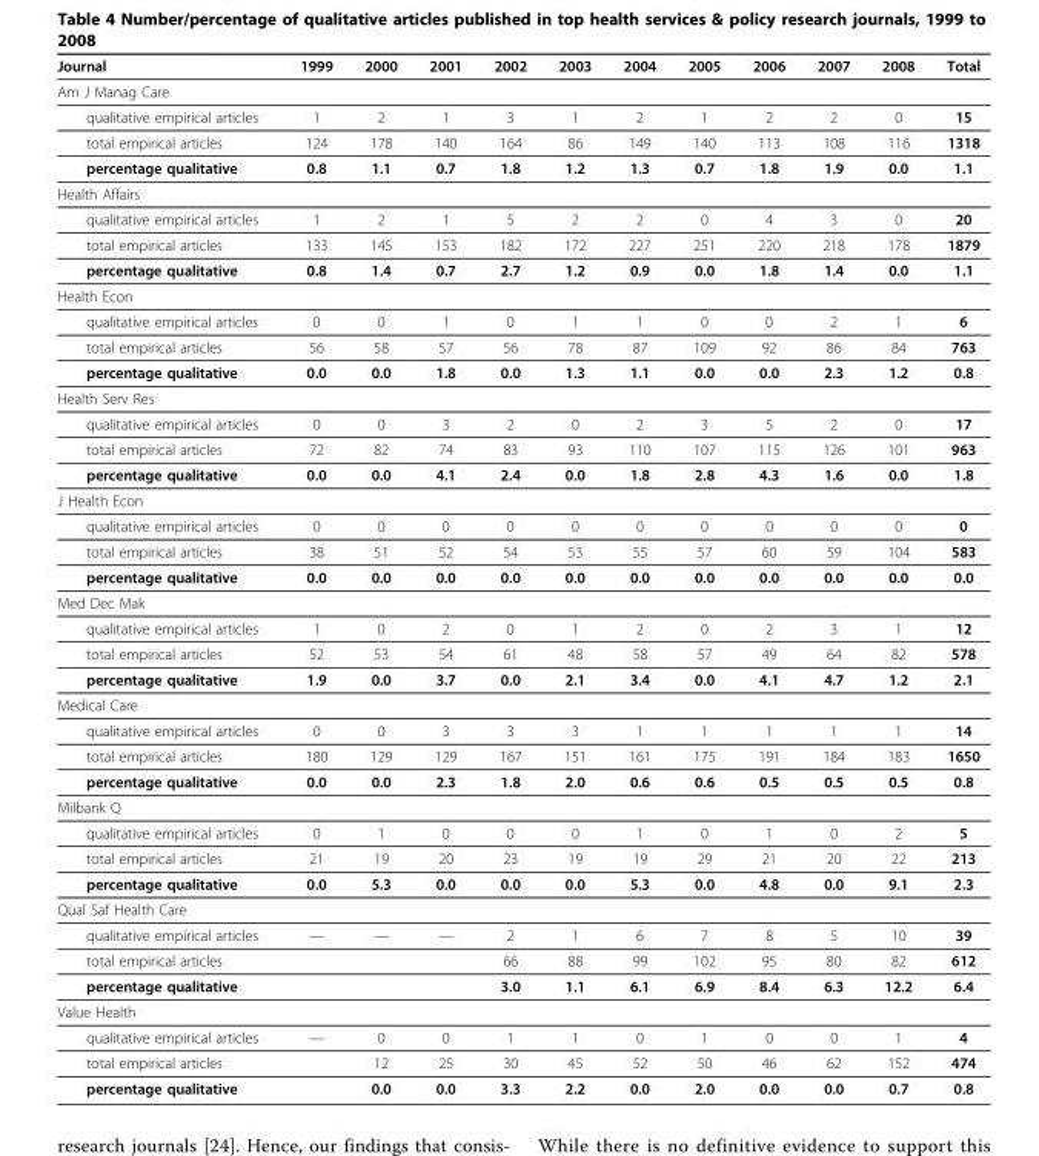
<table><thead><tr><td>Journal</td><td>1999</td><td>2000</td><td>2001</td><td>2002</td><td>2003</td><td>2004</td><td>2005</td><td>2006</td><td>2007</td><td>2008</td><td>Total</td></tr></thead><tbody><tr><td colspan="12">Am J Manag Care</td></tr><tr><td>qualitative empirical articles</td><td>1</td><td>2</td><td>1</td><td>3</td><td>1</td><td>2</td><td>1</td><td>2</td><td>2</td><td>0</td><td>15</td></tr><tr><td>total empirical articles</td><td>124</td><td>178</td><td>140</td><td>164</td><td>86</td><td>149</td><td>140</td><td>113</td><td>108</td><td>116</td><td>1318</td></tr><tr><td>percentage qualitative</td><td>0.8</td><td>1.1</td><td>0.7</td><td>1.8</td><td>1.2</td><td>1.3</td><td>0.7</td><td>1.8</td><td>1.9</td><td>0.0</td><td>1.1</td></tr><tr><td colspan="12">Health Affairs</td></tr><tr><td>qualitative empirical articles</td><td>1</td><td>2</td><td>1</td><td>5</td><td>2</td><td>2</td><td>0</td><td>4</td><td>3</td><td>0</td><td>20</td></tr><tr><td>total empirical articles</td><td>133</td><td>145</td><td>153</td><td>182</td><td>172</td><td>227</td><td>251</td><td>220</td><td>218</td><td>178</td><td>1879</td></tr><tr><td>percentage qualitative</td><td>0.8</td><td>1.4</td><td>0.7</td><td>2.7</td><td>1.2</td><td>0.9</td><td>0.0</td><td>1.8</td><td>1.4</td><td>0.0</td><td>1.1</td></tr><tr><td colspan="12">Health Econ</td></tr><tr><td>qualitative empirical articles</td><td>0</td><td>0</td><td>1</td><td>0</td><td>1</td><td>1</td><td>0</td><td>0</td><td>2</td><td>1</td><td>6</td></tr><tr><td>total empirical articles</td><td>56</td><td>58</td><td>57</td><td>56</td><td>78</td><td>87</td><td>109</td><td>92</td><td>86</td><td>84</td><td>763</td></tr><tr><td>percentage qualitative</td><td>0.0</td><td>0.0</td><td>1.8</td><td>0.0</td><td>1.3</td><td>1.1</td><td>0.0</td><td>0.0</td><td>2.3</td><td>1.2</td><td>0.8</td></tr><tr><td colspan="12">Health Serv Res</td></tr><tr><td>qualitative empirical articles</td><td>0</td><td>0</td><td>3</td><td>2</td><td>0</td><td>2</td><td>3</td><td>5</td><td>2</td><td>0</td><td>17</td></tr><tr><td>total empirical articles</td><td>72</td><td>82</td><td>74</td><td>83</td><td>93</td><td>110</td><td>107</td><td>115</td><td>126</td><td>101</td><td>963</td></tr><tr><td>percentage qualitative</td><td>0.0</td><td>0.0</td><td>4.1</td><td>2.4</td><td>0.0</td><td>1.8</td><td>2.8</td><td>4.3</td><td>1.6</td><td>0.0</td><td>1.8</td></tr><tr><td colspan="12">J Health Econ</td></tr><tr><td>qualitative empirical articles</td><td>0</td><td>0</td><td>0</td><td>0</td><td>0</td><td>0</td><td>0</td><td>0</td><td>0</td><td>0</td><td>0</td></tr><tr><td>total empirical articles</td><td>38</td><td>51</td><td>52</td><td>54</td><td>53</td><td>55</td><td>57</td><td>60</td><td>59</td><td>104</td><td>583</td></tr><tr><td>percentage qualitative</td><td>0.0</td><td>0.0</td><td>0.0</td><td>0.0</td><td>0.0</td><td>0.0</td><td>0.0</td><td>0.0</td><td>0.0</td><td>0.0</td><td>0.0</td></tr><tr><td colspan="12">Med Dec Mak</td></tr><tr><td>qualitative empirical articles</td><td>1</td><td>0</td><td>2</td><td>0</td><td>1</td><td>2</td><td>0</td><td>2</td><td>3</td><td>1</td><td>12</td></tr><tr><td>total empirical articles</td><td>52</td><td>53</td><td>54</td><td>61</td><td>48</td><td>58</td><td>57</td><td>49</td><td>64</td><td>82</td><td>578</td></tr><tr><td>percentage qualitative</td><td>1.9</td><td>0.0</td><td>3.7</td><td>0.0</td><td>2.1</td><td>3.4</td><td>0.0</td><td>4.1</td><td>4.7</td><td>1.2</td><td>2.1</td></tr><tr><td colspan="12">Medical Care</td></tr><tr><td>qualitative empirical articles</td><td>0</td><td>0</td><td>3</td><td>3</td><td>3</td><td>1</td><td>1</td><td>1</td><td>1</td><td>1</td><td>14</td></tr><tr><td>total empirical articles</td><td>180</td><td>129</td><td>129</td><td>167</td><td>151</td><td>161</td><td>175</td><td>191</td><td>184</td><td>183</td><td>1650</td></tr><tr><td>percentage qualitative</td><td>0.0</td><td>0.0</td><td>2.3</td><td>1.8</td><td>2.0</td><td>0.6</td><td>0.6</td><td>0.5</td><td>0.5</td><td>0.5</td><td>0.8</td></tr><tr><td colspan="12">Milbank Q</td></tr><tr><td>qualitative empirical articles</td><td>0</td><td>1</td><td>0</td><td>0</td><td>0</td><td>1</td><td>0</td><td>1</td><td>0</td><td>2</td><td>5</td></tr><tr><td>total empirical articles</td><td>21</td><td>19</td><td>20</td><td>23</td><td>19</td><td>19</td><td>29</td><td>21</td><td>20</td><td>22</td><td>213</td></tr><tr><td>percentage qualitative</td><td>0.0</td><td>5.3</td><td>0.0</td><td>0.0</td><td>0.0</td><td>5.3</td><td>0.0</td><td>4.8</td><td>0.0</td><td>9.1</td><td>2.3</td></tr><tr><td colspan="12">Qual Saf Health Care</td></tr><tr><td>qualitative empirical articles</td><td>—</td><td>—</td><td>—</td><td>2</td><td>1</td><td>6</td><td>7</td><td>8</td><td>5</td><td>10</td><td>39</td></tr><tr><td>total empirical articles</td><td></td><td></td><td></td><td>66</td><td>88</td><td>99</td><td>102</td><td>95</td><td>80</td><td>82</td><td>612</td></tr><tr><td>percentage qualitative</td><td></td><td></td><td></td><td>3.0</td><td>1.1</td><td>6.1</td><td>6.9</td><td>8.4</td><td>6.3</td><td>12.2</td><td>6.4</td></tr><tr><td colspan="12">Value Health</td></tr><tr><td>qualitative empirical articles</td><td>—</td><td>0</td><td>0</td><td>1</td><td>1</td><td>0</td><td>1</td><td>0</td><td>0</td><td>1</td><td>4</td></tr><tr><td>total empirical articles</td><td></td><td>12</td><td>25</td><td>30</td><td>45</td><td>52</td><td>50</td><td>46</td><td>62</td><td>152</td><td>474</td></tr><tr><td>percentage qualitative</td><td></td><td>0.0</td><td>0.0</td><td>3.3</td><td>2.2</td><td>0.0</td><td>2.0</td><td>0.0</td><td>0.0</td><td>0.7</td><td>0.8</td></tr></tbody></table>